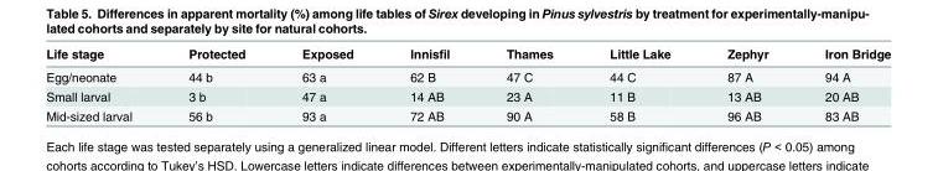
<table><thead><tr><td>Life stage</td><td>Protected</td><td>Exposed</td><td>Innisfil</td><td>Thames</td><td>Little Lake</td><td>Zephyr</td><td>Iron Bridge</td></tr></thead><tbody><tr><td>Egg/neonate</td><td>44 b</td><td>63 a</td><td>62 B</td><td>47 C</td><td>44 C</td><td>87 A</td><td>94 A</td></tr><tr><td>Small larval</td><td>3 b</td><td>47 a</td><td>14 AB</td><td>23 A</td><td>11 B</td><td>13 AB</td><td>20 AB</td></tr><tr><td>Mid-sized larval</td><td>56 b</td><td>93 a</td><td>72 AB</td><td>90 A</td><td>58 B</td><td>96 AB</td><td>83 AB</td></tr></tbody></table>